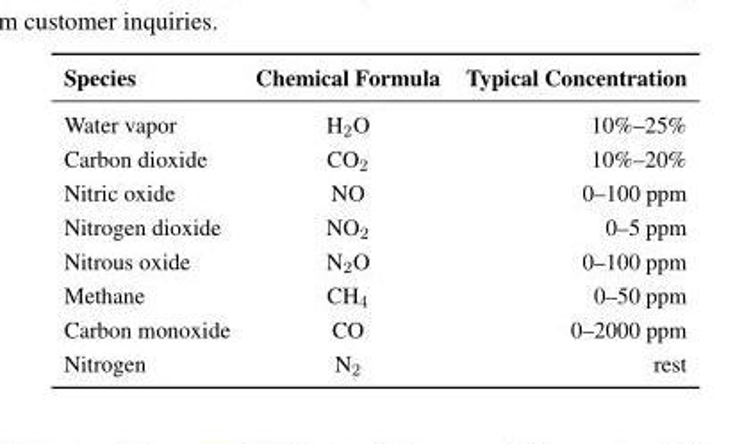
<table><thead><tr><td>Species</td><td>Chemical Formula</td><td>Typical Concentration</td></tr></thead><tbody><tr><td>Water vapor</td><td>H<sub>2</sub>O</td><td>10%–25%</td></tr><tr><td>Carbon dioxide</td><td>CO<sub>2</sub></td><td>10%–20%</td></tr><tr><td>Nitric oxide</td><td>NO</td><td>0–100 ppm</td></tr><tr><td>Nitrogen dioxide</td><td>NO<sub>2</sub></td><td>0–5 ppm</td></tr><tr><td>Nitrous oxide</td><td>N<sub>2</sub>O</td><td>0–100 ppm</td></tr><tr><td>Methane</td><td>CH<sub>4</sub></td><td>0–50 ppm</td></tr><tr><td>Carbon monoxide</td><td>CO</td><td>0–2000 ppm</td></tr><tr><td>Nitrogen</td><td>N<sub>2</sub></td><td>rest</td></tr></tbody></table>